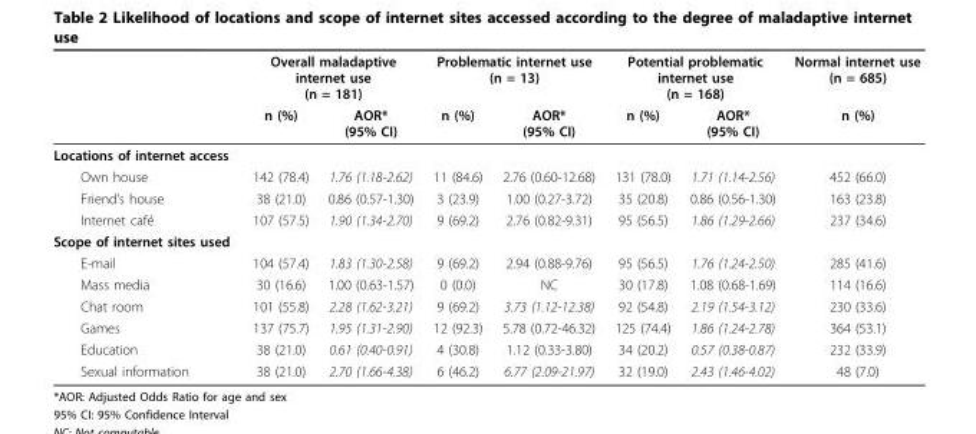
<table><thead><tr><td rowspan="2"></td><td colspan="2">Overall maladaptive internet use (n = 181)</td><td colspan="2">Problematic internet use (n = 13)</td><td colspan="2">Potential problematic internet use (n = 168)</td><td rowspan="2">Normal internet use (n = 685) n (%)</td></tr><tr><td>n (%)</td><td>AOR* (95% CI)</td><td>n (%)</td><td>AOR* (95% CI)</td><td>n (%)</td><td>AOR* (95% CI)</td></tr></thead><tbody><tr><td colspan="8">Locations of internet access</td></tr><tr><td>Own house</td><td>142 (78.4)</td><td>1.76 (1.18-2.62)</td><td>11 (84.6)</td><td>2.76 (0.60-12.68)</td><td>131 (78.0)</td><td>1.71 (1.14-2.56)</td><td>452 (66.0)</td></tr><tr><td>Friend’s house</td><td>38 (21.0)</td><td>0.86 (0.57-1.30)</td><td>3 (23.9)</td><td>1.00 (0.27-3.72)</td><td>35 (20.8)</td><td>0.86 (0.56-1.30)</td><td>163 (23.8)</td></tr><tr><td>Internet café</td><td>107 (57.5)</td><td>1.90 (1.34-2.70)</td><td>9 (69.2)</td><td>2.76 (0.82-9.31)</td><td>95 (56.5)</td><td>1.86 (1.29-2.66)</td><td>237 (34.6)</td></tr><tr><td colspan="8">Scope of internet sites used</td></tr><tr><td>E-mail</td><td>104 (57.4)</td><td>1.83 (1.30-2.58)</td><td>9 (69.2)</td><td>2.94 (0.88-9.76)</td><td>95 (56.5)</td><td>1.76 (1.24-2.50)</td><td>285 (41.6)</td></tr><tr><td>Mass media</td><td>30 (16.6)</td><td>1.00 (0.63-1.57)</td><td>0 (0.0)</td><td>NC</td><td>30 (17.8)</td><td>1.08 (0.68-1.69)</td><td>114 (16.6)</td></tr><tr><td>Chat room</td><td>101 (55.8)</td><td>2.28 (1.62-3.21)</td><td>9 (69.2)</td><td>3.73 (1.12-12.38)</td><td>92 (54.8)</td><td>2.19 (1.54-3.12)</td><td>230 (33.6)</td></tr><tr><td>Games</td><td>137 (75.7)</td><td>1.95 (1.31-2.90)</td><td>12 (92.3)</td><td>5.78 (0.72-46.32)</td><td>125 (74.4)</td><td>1.86 (1.24-2.78)</td><td>364 (53.1)</td></tr><tr><td>Education</td><td>38 (21.0)</td><td>0.61 (0.40-0.91)</td><td>4 (30.8)</td><td>1.12 (0.33-3.80)</td><td>34 (20.2)</td><td>0.57 (0.38-0.87)</td><td>232 (33.9)</td></tr><tr><td>Sexual information</td><td>38 (21.0)</td><td>2.70 (1.66-4.38)</td><td>6 (46.2)</td><td>6.77 (2.09-21.97)</td><td>32 (19.0)</td><td>2.43 (1.46-4.02)</td><td>48 (7.0)</td></tr></tbody></table>